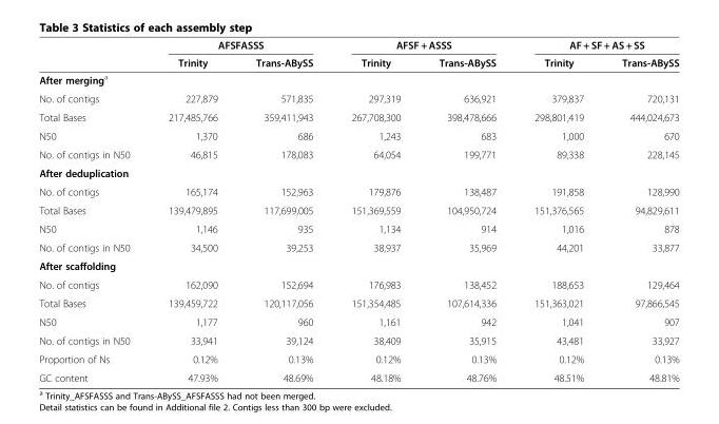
<table><thead><tr><td rowspan="2"></td><td colspan="2">AFSFASSS</td><td colspan="2">AFSF + ASSS</td><td colspan="2">AF + SF + AS + SS</td></tr><tr><td>Trinity</td><td>Trans-ABySS</td><td>Trinity</td><td>Trans-ABySS</td><td>Trinity</td><td>Trans-ABySS</td></tr></thead><tbody><tr><td colspan="7">After merging<sup>a</sup></td></tr><tr><td>No. of contigs</td><td>227,879</td><td>571,835</td><td>297,319</td><td>636,921</td><td>379,837</td><td>720,131</td></tr><tr><td>Total Bases</td><td>217,485,766</td><td>359,411,943</td><td>267,708,300</td><td>398,478,666</td><td>298,801,419</td><td>444,024,673</td></tr><tr><td>N50</td><td>1,370</td><td>686</td><td>1,243</td><td>683</td><td>1,000</td><td>670</td></tr><tr><td>No. of contigs in N50</td><td>46,815</td><td>178,083</td><td>64,054</td><td>199,771</td><td>89,338</td><td>228,145</td></tr><tr><td colspan="7">After deduplication</td></tr><tr><td>No. of contigs</td><td>165,174</td><td>152,963</td><td>179,876</td><td>138,487</td><td>191,858</td><td>128,990</td></tr><tr><td>Total Bases</td><td>139,479,895</td><td>117,699,005</td><td>151,369,559</td><td>104,950,724</td><td>151,376,565</td><td>94,829,611</td></tr><tr><td>N50</td><td>1,146</td><td>935</td><td>1,134</td><td>914</td><td>1,016</td><td>878</td></tr><tr><td>No. of contigs in N50</td><td>34,500</td><td>39,253</td><td>38,937</td><td>35,969</td><td>44,201</td><td>33,877</td></tr><tr><td colspan="7">After scaffolding</td></tr><tr><td>No. of contigs</td><td>162,090</td><td>152,694</td><td>176,983</td><td>138,452</td><td>188,653</td><td>129,464</td></tr><tr><td>Total Bases</td><td>139,459,722</td><td>120,117,056</td><td>151,354,485</td><td>107,614,336</td><td>151,363,021</td><td>97,866,545</td></tr><tr><td>N50</td><td>1,177</td><td>960</td><td>1,161</td><td>942</td><td>1,041</td><td>907</td></tr><tr><td>No. of contigs in N50</td><td>33,941</td><td>39,124</td><td>38,409</td><td>35,915</td><td>43,481</td><td>33,927</td></tr><tr><td>Proportion of Ns</td><td>0.12%</td><td>0.13%</td><td>0.12%</td><td>0.13%</td><td>0.12%</td><td>0.13%</td></tr><tr><td>GC content</td><td>47.93%</td><td>48.69%</td><td>48.18%</td><td>48.76%</td><td>48.51%</td><td>48.81%</td></tr></tbody></table>